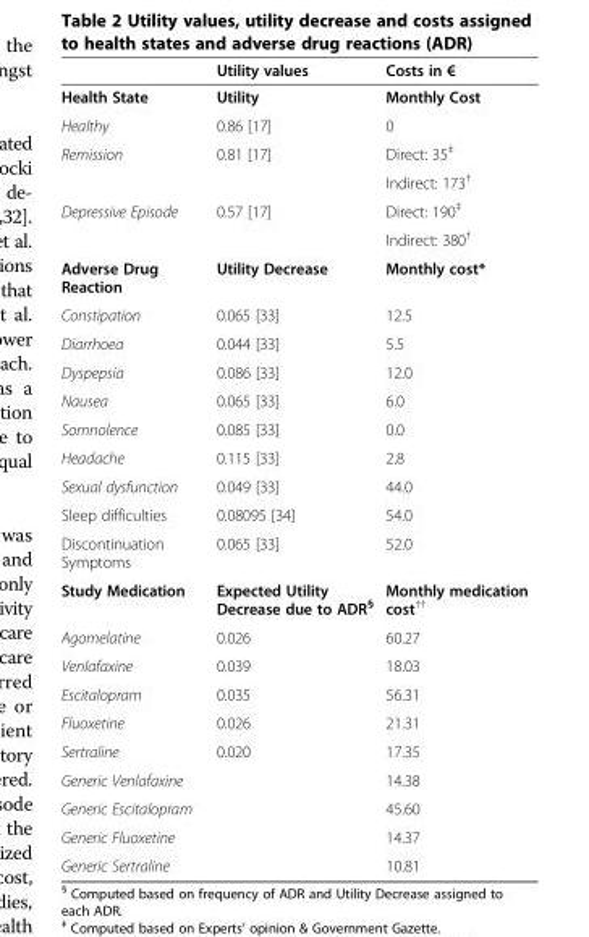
<table><thead><tr><td></td><td>Utility values</td><td>Costs in €</td></tr></thead><tbody><tr><td>Health State</td><td>Utility</td><td>Monthly Cost</td></tr><tr><td>Healthy</td><td>0.86 [17]</td><td>0</td></tr><tr><td rowspan="2">Remission</td><td rowspan="2">0.81 [17]</td><td>Direct: 35<sup>‡</sup></td></tr><tr><td>Indirect: 173<sup>†</sup></td></tr><tr><td rowspan="2">Depressive Episode</td><td rowspan="2">0.57 [17]</td><td>Direct: 190<sup>‡</sup></td></tr><tr><td>Indirect: 380<sup>†</sup></td></tr><tr><td>Adverse Drug Reaction</td><td>Utility Decrease</td><td>Monthly cost*</td></tr><tr><td>Constipation</td><td>0.065 [33]</td><td>12.5</td></tr><tr><td>Diarrhoea</td><td>0.044 [33]</td><td>5.5</td></tr><tr><td>Dyspepsia</td><td>0.086 [33]</td><td>12.0</td></tr><tr><td>Nausea</td><td>0.065 [33]</td><td>6.0</td></tr><tr><td>Somnolence</td><td>0.085 [33]</td><td>0.0</td></tr><tr><td>Headache</td><td>0.115 [33]</td><td>2.8</td></tr><tr><td>Sexual dysfunction</td><td>0.049 [33]</td><td>44.0</td></tr><tr><td>Sleep difficulties</td><td>0.08095 [34]</td><td>54.0</td></tr><tr><td>Discontinuation Symptoms</td><td>0.065 [33]</td><td>52.0</td></tr><tr><td>Study Medication</td><td>Expected Utility Decrease due to ADR<sup>§</sup></td><td>Monthly medication cost<sup>††</sup></td></tr><tr><td>Agomelatine</td><td>0.026</td><td>60.27</td></tr><tr><td>Venlafaxine</td><td>0.039</td><td>18.03</td></tr><tr><td>Escitalopram</td><td>0.035</td><td>56.31</td></tr><tr><td>Fluoxetine</td><td>0.026</td><td>21.31</td></tr><tr><td>Sertraline</td><td>0.020</td><td>17.35</td></tr><tr><td>Generic Venlafaxine</td><td></td><td>14.38</td></tr><tr><td>Generic Escitalopram</td><td></td><td>45.60</td></tr><tr><td>Generic Fluoxetine</td><td></td><td>14.37</td></tr><tr><td>Generic Sertraline</td><td></td><td>10.81</td></tr></tbody></table>